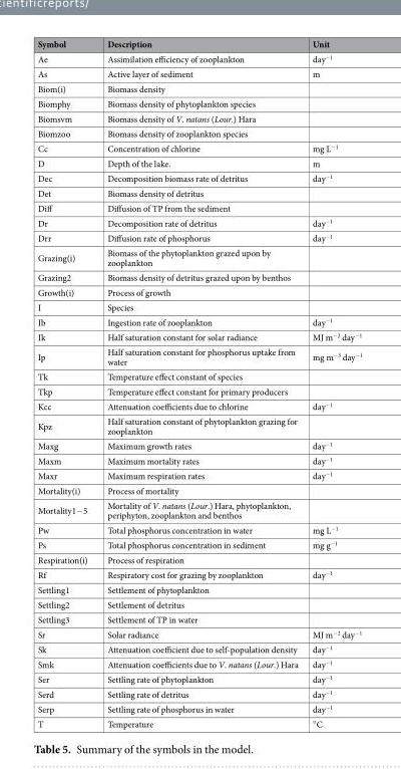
<table><thead><tr><td>Symbol</td><td>Description</td><td>Unit</td></tr></thead><tbody><tr><td>Ae</td><td>Assimilation efficiency of zooplankton</td><td>day<sup>−1</sup></td></tr><tr><td>As</td><td>Active layer of sediment</td><td>m</td></tr><tr><td>Biom(i)</td><td>Biomass density</td><td></td></tr><tr><td>Biomphy</td><td>Biomass density of phytoplankton species</td><td></td></tr><tr><td>Biomsvm</td><td>Biomass density of V. natans (Lour.) Hara</td><td></td></tr><tr><td>Biomzoo</td><td>Biomass density of zooplankton species</td><td></td></tr><tr><td>Cc</td><td>Concentration of chlorine</td><td>mg L<sup>−1</sup></td></tr><tr><td>D</td><td>Depth of the lake.</td><td>m</td></tr><tr><td>Dec</td><td>Decomposition biomass rate of detritus</td><td>day<sup>−1</sup></td></tr><tr><td>Det</td><td>Biomass density of detritus</td><td></td></tr><tr><td>Diff</td><td>Diffusion of TP from the sediment</td><td></td></tr><tr><td>Dr</td><td>Decomposition rate of detritus</td><td>day<sup>−1</sup></td></tr><tr><td>Drr</td><td>Diffusion rate of phosphorus</td><td>day<sup>−1</sup></td></tr><tr><td>Grazing(i)</td><td>Biomass of the phytoplankton grazed upon by zooplankton</td><td></td></tr><tr><td>Grazing2</td><td>Biomass density of detritus grazed upon by benthos</td><td></td></tr><tr><td>Growth(i)</td><td>Process of growth</td><td></td></tr><tr><td>I</td><td>Species</td><td></td></tr><tr><td>Ib</td><td>Ingestion rate of zooplankton</td><td>day<sup>−1</sup></td></tr><tr><td>Ik</td><td>Half saturation constant for solar radiance</td><td>MJ m<sup>−2</sup> day<sup>−1</sup></td></tr><tr><td>Ip</td><td>Half saturation constant for phosphorus uptake from water</td><td>mg m<sup>−3</sup> day<sup>−1</sup></td></tr><tr><td>Tk</td><td>Temperature effect constant of species</td><td></td></tr><tr><td>Tkp</td><td>Temperature effect constant for primary producers</td><td></td></tr><tr><td>Kcc</td><td>Attenuation coefficients due to chlorine</td><td>day<sup>−1</sup></td></tr><tr><td>Kpz</td><td>Half saturation constant of phytoplankton grazing for zooplankton</td><td></td></tr><tr><td>Maxg</td><td>Maximum growth rates</td><td>day<sup>−1</sup></td></tr><tr><td>Maxm</td><td>Maximum mortality rates</td><td>day<sup>−1</sup></td></tr><tr><td>Maxr</td><td>Maximum respiration rates</td><td>day<sup>−1</sup></td></tr><tr><td>Mortality(i)</td><td>Process of mortality</td><td></td></tr><tr><td>Mortality1−5</td><td>Mortality of V. natans (Lour.) Hara, phytoplankton, periphyton, zooplankton and benthos</td><td></td></tr><tr><td>Pw</td><td>Total phosphorus concentration in water</td><td>mg L<sup>−1</sup></td></tr><tr><td>Ps</td><td>Total phosphorus concentration in sediment</td><td>mg g<sup>−1</sup></td></tr><tr><td>Respiration(i)</td><td>Process of respiration</td><td></td></tr><tr><td>Rf</td><td>Respiratory cost for grazing by zooplankton</td><td>day<sup>−1</sup></td></tr><tr><td>Settling1</td><td>Settlement of phytoplankton</td><td></td></tr><tr><td>Settling2</td><td>Settlement of detritus</td><td></td></tr><tr><td>Settling3</td><td>Settlement of TP in water</td><td></td></tr><tr><td>Sr</td><td>Solar radiance</td><td>MJ m<sup>−2</sup> day<sup>−1</sup></td></tr><tr><td>Sk</td><td>Attenuation coefficient due to self-population density</td><td>day<sup>−1</sup></td></tr><tr><td>Smk</td><td>Attenuation coefficients due to V. natans (Lour.) Hara</td><td>day<sup>−1</sup></td></tr><tr><td>Ser</td><td>Settling rate of phytoplankton</td><td>day<sup>−1</sup></td></tr><tr><td>Serd</td><td>Settling rate of detritus</td><td>day<sup>−1</sup></td></tr><tr><td>Serp</td><td>Settling rate of phosphorus in water</td><td>day<sup>−1</sup></td></tr><tr><td>T</td><td>Temperature</td><td>°C</td></tr></tbody></table>